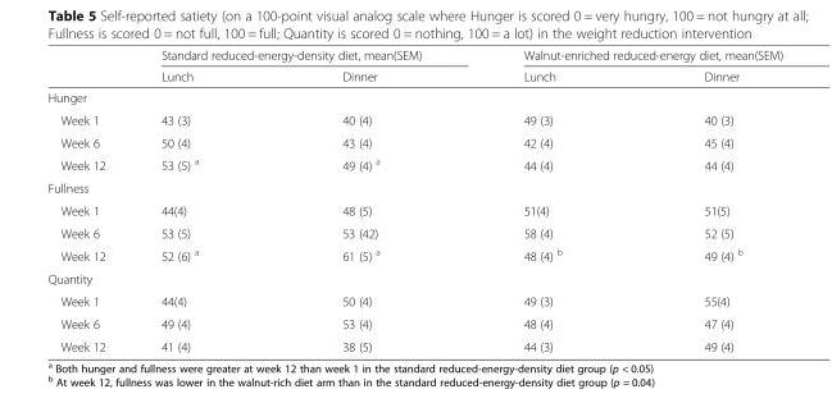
<table><thead><tr><td rowspan="2"></td><td colspan="2">Standard reduced-energy-density diet, mean(SEM)</td><td colspan="2">Walnut-enriched reduced-energy diet, mean(SEM)</td></tr><tr><td>Lunch</td><td>Dinner</td><td>Lunch</td><td>Dinner</td></tr></thead><tbody><tr><td colspan="5">Hunger</td></tr><tr><td>Week 1</td><td>43 (3)</td><td>40 (4)</td><td>49 (3)</td><td>40 (3)</td></tr><tr><td>Week 6</td><td>50 (4)</td><td>43 (4)</td><td>42 (4)</td><td>45 (4)</td></tr><tr><td>Week 12</td><td>53 (5) <sup>a</sup></td><td>49 (4) <sup>a</sup></td><td>44 (4)</td><td>44 (4)</td></tr><tr><td colspan="5">Fullness</td></tr><tr><td>Week 1</td><td>44(4)</td><td>48 (5)</td><td>51(4)</td><td>51(5)</td></tr><tr><td>Week 6</td><td>53 (5)</td><td>53 (42)</td><td>58 (4)</td><td>52 (5)</td></tr><tr><td>Week 12</td><td>52 (6) <sup>a</sup></td><td>61 (5) <sup>a</sup></td><td>48 (4) <sup>b</sup></td><td>49 (4) <sup>b</sup></td></tr><tr><td colspan="5">Quantity</td></tr><tr><td>Week 1</td><td>44(4)</td><td>50 (4)</td><td>49 (3)</td><td>55(4)</td></tr><tr><td>Week 6</td><td>49 (4)</td><td>53 (4)</td><td>48 (4)</td><td>47 (4)</td></tr><tr><td>Week 12</td><td>41 (4)</td><td>38 (5)</td><td>44 (3)</td><td>49 (4)</td></tr></tbody></table>